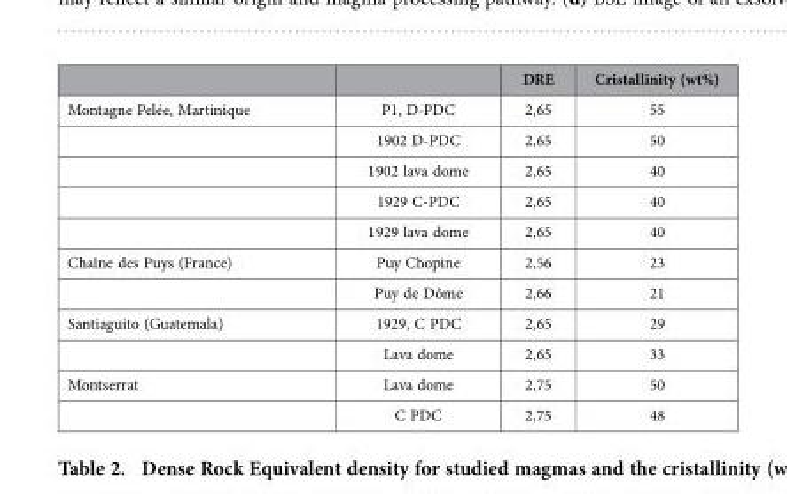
<table><thead><tr><td></td><td></td><td>DRE</td><td>Cristallinity (wt%)</td></tr></thead><tbody><tr><td rowspan="5">Montagne Pelée, Martinique</td><td>P1, D-PDC</td><td>2,65</td><td>55</td></tr><tr><td>1902 D-PDC</td><td>2,65</td><td>50</td></tr><tr><td>1902 lava dome</td><td>2,65</td><td>40</td></tr><tr><td>1929 C-PDC</td><td>2,65</td><td>40</td></tr><tr><td>1929 lava dome</td><td>2,65</td><td>40</td></tr><tr><td rowspan="2">Chaîne des Puys (France)</td><td>Puy Chopine</td><td>2,56</td><td>23</td></tr><tr><td>Puy de Dôme</td><td>2,66</td><td>21</td></tr><tr><td rowspan="2">Santiaguito (Guatemala)</td><td>1929, C PDC</td><td>2,65</td><td>29</td></tr><tr><td>Lava dome</td><td>2,65</td><td>33</td></tr><tr><td rowspan="2">Montserrat</td><td>Lava dome</td><td>2,75</td><td>50</td></tr><tr><td>C PDC</td><td>2,75</td><td>48</td></tr></tbody></table>